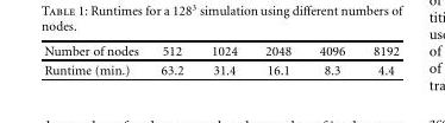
<table><thead><tr><td>Number of nodes</td><td>512</td><td>1024</td><td>2048</td><td>4096</td><td>8192</td></tr></thead><tbody><tr><td>Runtime (min.)</td><td>63.2</td><td>31.4</td><td>16.1</td><td>8.3</td><td>4.4</td></tr></tbody></table>